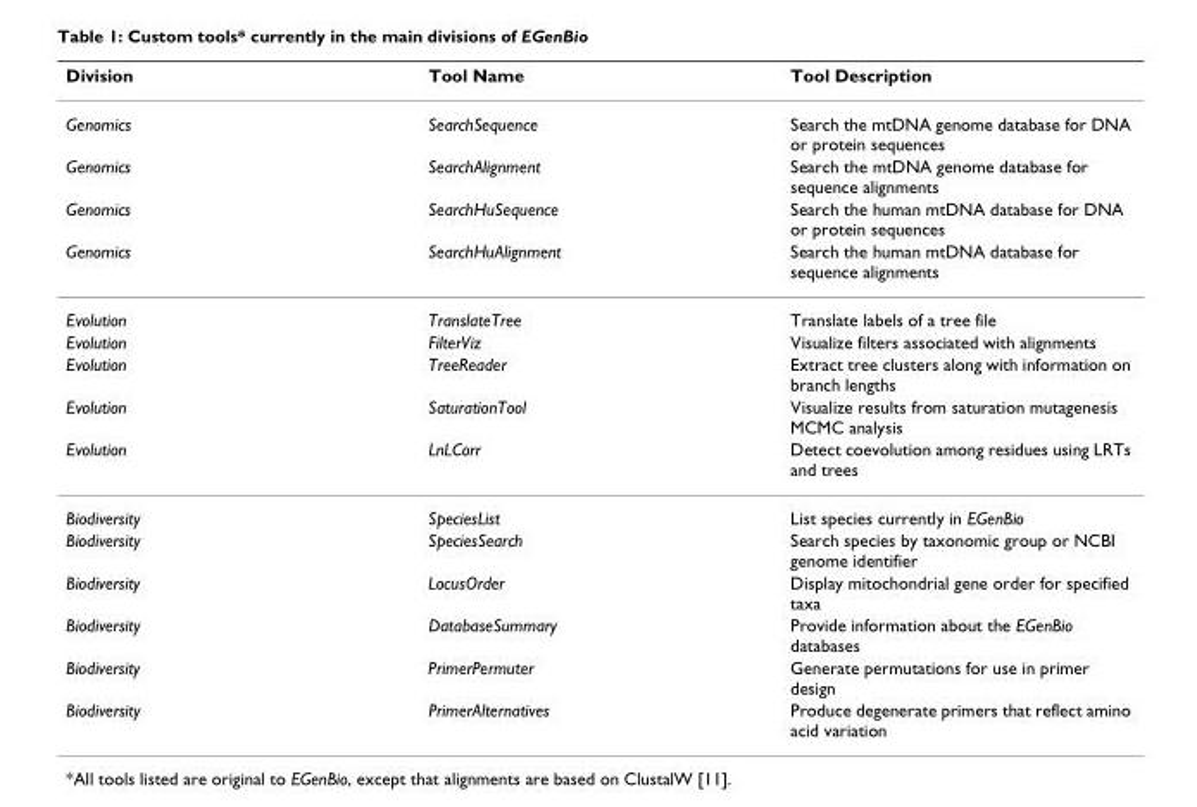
<table><thead><tr><td>Division</td><td>Tool Name</td><td>Tool Description</td></tr></thead><tbody><tr><td>Genomics</td><td>SearchSequence</td><td>Search the mtDNA genome database for DNA or protein sequences</td></tr><tr><td>Genomics</td><td>SearchAlignment</td><td>Search the mtDNA genome database for sequence alignments</td></tr><tr><td>Genomics</td><td>SearchHuSequence</td><td>Search the human mtDNA database for DNA or protein sequences</td></tr><tr><td>Genomics</td><td>SearchHuAlignment</td><td>Search the human mtDNA database for sequence alignments</td></tr><tr><td>Evolution</td><td>TranslateTree</td><td>Translate labels of a tree file</td></tr><tr><td>Evolution</td><td>FilterViz</td><td>Visualize filters associated with alignments</td></tr><tr><td>Evolution</td><td>TreeReader</td><td>Extract tree clusters along with information on branch lengths</td></tr><tr><td>Evolution</td><td>SaturationTool</td><td>Visualize results from saturation mutagenesis MCMC analysis</td></tr><tr><td>Evolution</td><td>LnLCorr</td><td>Detect coevolution among residues using LRTs and trees</td></tr><tr><td>Biodiversity</td><td>SpeciesList</td><td>List species currently in EGenBio</td></tr><tr><td>Biodiversity</td><td>SpeciesSearch</td><td>Search species by taxonomic group or NCBI genome identifier</td></tr><tr><td>Biodiversity</td><td>LocusOrder</td><td>Display mitochondrial gene order for specified taxa</td></tr><tr><td>Biodiversity</td><td>DatabaseSummary</td><td>Provide information about the EGenBio databases</td></tr><tr><td>Biodiversity</td><td>PrimerPermuter</td><td>Generate permutations for use in primer design</td></tr><tr><td>Biodiversity</td><td>PrimerAlternatives</td><td>Produce degenerate primers that reflect amino acid variation</td></tr></tbody></table>